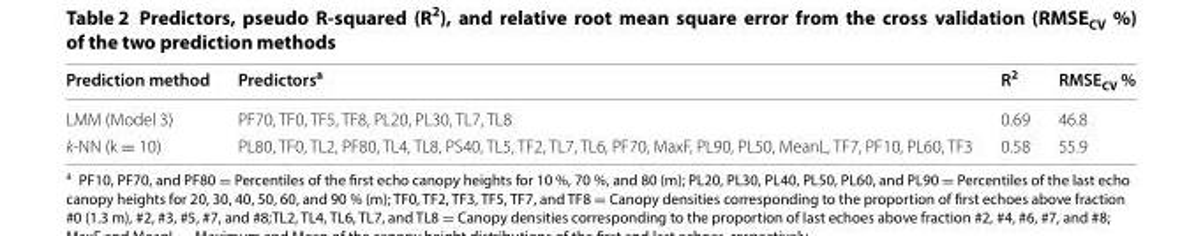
<table><thead><tr><td>Prediction method</td><td>Predictors<sup>a</sup></td><td>R<sup>2</sup></td><td>RMSE<sub>CV</sub> %</td></tr></thead><tbody><tr><td>LMM (Model 3)</td><td>PF70, TF0, TF5, TF8, PL20, PL30, TL7, TL8</td><td>0.69</td><td>46.8</td></tr><tr><td>k-NN (k = 10)</td><td>PL80, TF0, TL2, PF80, TL4, TL8, PS40, TL5, TF2, TL7, TL6, PF70, MaxF, PL90, PL50, MeanL, TF7, PF10, PL60, TF3</td><td>0.58</td><td>55.9</td></tr></tbody></table>